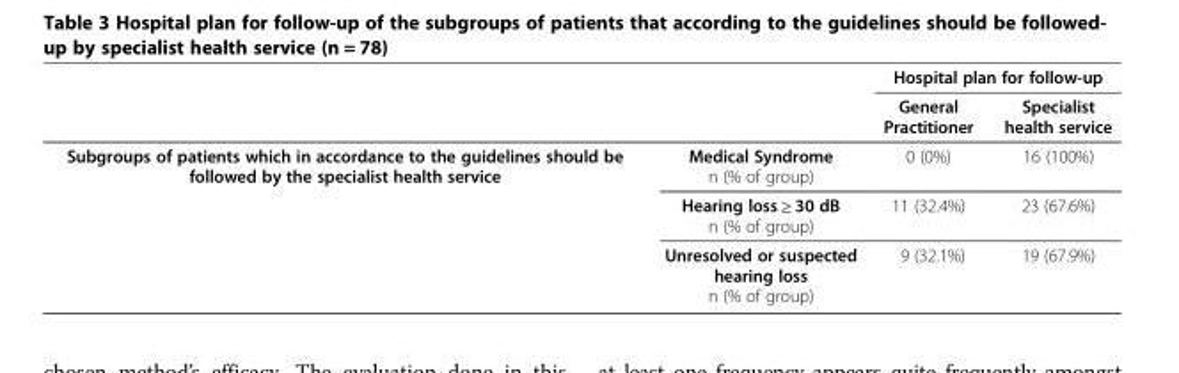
<table><thead><tr><td rowspan="2"></td><td rowspan="2"></td><td colspan="2">Hospital plan for follow-up</td></tr><tr><td>General Practitioner</td><td>Specialist health service</td></tr></thead><tbody><tr><td rowspan="3">Subgroups of patients which in accordance to the guidelines should be followed by the specialist health service</td><td>Medical Syndrome n (% of group)</td><td>0 (0%)</td><td>16 (100%)</td></tr><tr><td>Hearing loss ≥ 30 dB n (% of group)</td><td>11 (32.4%)</td><td>23 (67.6%)</td></tr><tr><td>Unresolved or suspected hearing loss n (% of group)</td><td>9 (32.1%)</td><td>19 (67.9%)</td></tr></tbody></table>